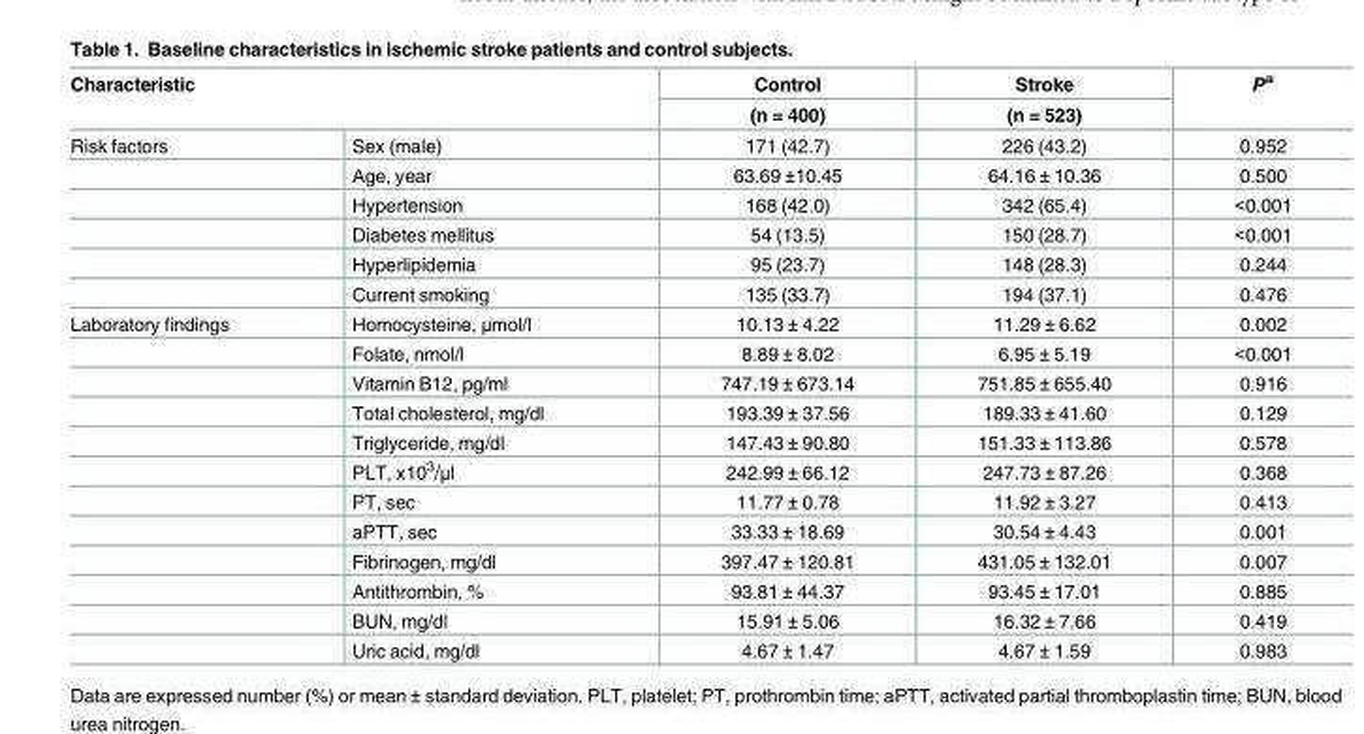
<table><thead><tr><td rowspan="2" colspan="2">Characteristic</td><td rowspan="3">Control (n = 400) 171 (42.7)</td><td rowspan="3">Stroke (n = 523) 226 (43.2)</td><td rowspan="3">P<sup>a</sup> 0.952</td></tr><tr></tr><tr><td>Risk factors</td><td>Sex (male)</td></tr></thead><tbody><tr><td></td><td>Age, year</td><td>63.69 ±10.45</td><td>64.16 ± 10.36</td><td>0.500</td></tr><tr><td></td><td>Hypertension</td><td>168 (42.0)</td><td>342 (65.4)</td><td>&lt;0.001</td></tr><tr><td></td><td>Diabetes mellitus</td><td>54 (13.5)</td><td>150 (28.7)</td><td>&lt;0.001</td></tr><tr><td></td><td>Hyperlipidemia</td><td>95 (23.7)</td><td>148 (28.3)</td><td>0.244</td></tr><tr><td></td><td>Current smoking</td><td>135 (33.7)</td><td>194 (37.1)</td><td>0.476</td></tr><tr><td rowspan="12">Laboratory findings</td><td>Homocysteine, μmol/l</td><td>10.13 ± 4.22</td><td>11.29 ± 6.62</td><td>0.002</td></tr><tr><td>Folate, nmol/l</td><td>8.89 ± 8.02</td><td>6.95 ± 5.19</td><td>&lt;0.001</td></tr><tr><td>Vitamin B12, pg/ml</td><td>747.19 ± 673.14</td><td>751.85 ± 655.40</td><td>0.916</td></tr><tr><td>Total cholesterol, mg/dl</td><td>193.39 ± 37.56</td><td>189.33 ± 41.60</td><td>0.129</td></tr><tr><td>Triglyceride, mg/dl</td><td>147.43 ± 90.80</td><td>151.33 ± 113.86</td><td>0.578</td></tr><tr><td>PLT, x10<sup>3</sup>/μl</td><td>242.99 ± 66.12</td><td>247.73 ± 87.26</td><td>0.368</td></tr><tr><td>PT, sec</td><td>11.77 ± 0.78</td><td>11.92 ± 3.27</td><td>0.413</td></tr><tr><td>aPTT, sec</td><td>33.33 ± 18.69</td><td>30.54 ± 4.43</td><td>0.001</td></tr><tr><td>Fibrinogen, mg/dl</td><td>397.47 ± 120.81</td><td>431.05 ± 132.01</td><td>0.007</td></tr><tr><td>Antithrombin, %</td><td>93.81 ± 44.37</td><td>93.45 ± 17.01</td><td>0.885</td></tr><tr><td>BUN, mg/dl</td><td>15.91 ± 5.06</td><td>16.32 ± 7.66</td><td>0.419</td></tr><tr><td>Uric acid, mg/dl</td><td>4.67 ± 1.47</td><td>4.67 ± 1.59</td><td>0.983</td></tr></tbody></table>